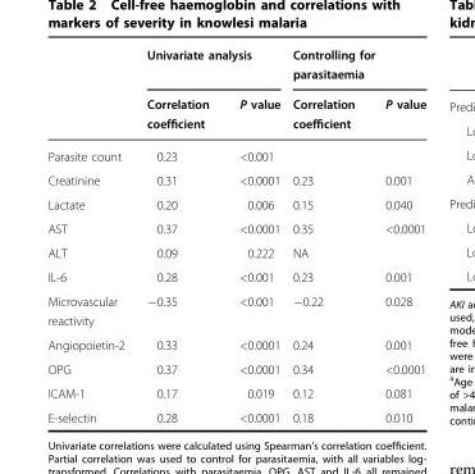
<table><thead><tr><td rowspan="2"></td><td colspan="2">Univariate analysis</td><td colspan="2">Controlling for parasitaemia</td></tr><tr><td>Correlation coefficient</td><td>P value</td><td>Correlation coefficient</td><td>P value</td></tr></thead><tbody><tr><td>Parasite count</td><td>0.23</td><td>&lt;0.001</td><td></td><td></td></tr><tr><td>Creatinine</td><td>0.31</td><td>&lt;0.0001</td><td>0.23</td><td>0.001</td></tr><tr><td>Lactate</td><td>0.20</td><td>0.006</td><td>0.15</td><td>0.040</td></tr><tr><td>AST</td><td>0.37</td><td>&lt;0.0001</td><td>0.35</td><td>&lt;0.0001</td></tr><tr><td>ALT</td><td>0.09</td><td>0.222</td><td>NA</td><td></td></tr><tr><td>IL-6</td><td>0.28</td><td>&lt;0.001</td><td>0.23</td><td>0.001</td></tr><tr><td>Microvascular reactivity</td><td>−0.35</td><td>&lt;0.001</td><td>−0.22</td><td>0.028</td></tr><tr><td>Angiopoietin-2</td><td>0.33</td><td>&lt;0.0001</td><td>0.24</td><td>0.001</td></tr><tr><td>OPG</td><td>0.37</td><td>&lt;0.0001</td><td>0.34</td><td>&lt;0.0001</td></tr><tr><td>ICAM-1</td><td>0.17</td><td>0.019</td><td>0.12</td><td>0.081</td></tr><tr><td>E-selectin</td><td>0.28</td><td>&lt;0.0001</td><td>0.18</td><td>0.010</td></tr></tbody></table>